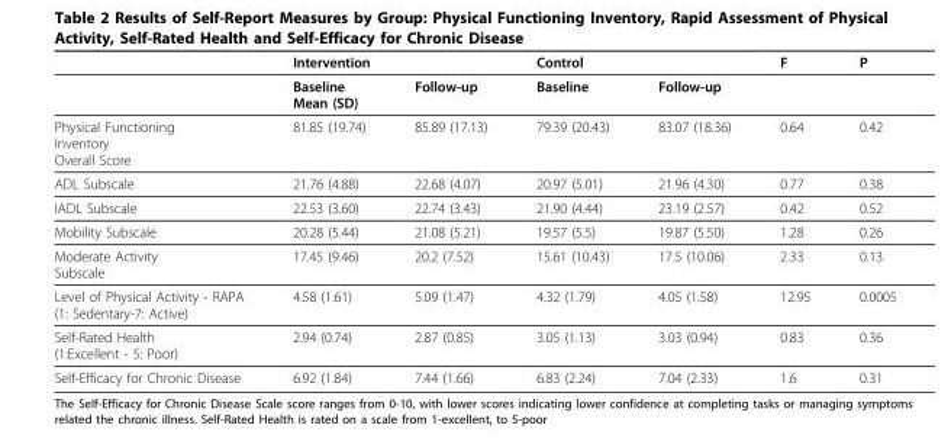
<table><thead><tr><td rowspan="2"></td><td colspan="2">Intervention</td><td colspan="2">Control</td><td rowspan="2">F</td><td rowspan="2">P</td></tr><tr><td>Baseline Mean (SD)</td><td>Follow-up</td><td>Baseline</td><td>Follow-up</td></tr></thead><tbody><tr><td>Physical Functioning Inventory Overall Score</td><td>81.85 (19.74)</td><td>85.89 (17.13)</td><td>79.39 (20.43)</td><td>83.07 (18.36)</td><td>0.64</td><td>0.42</td></tr><tr><td>ADL Subscale</td><td>21.76 (4.88)</td><td>22.68 (4.07)</td><td>20.97 (5.01)</td><td>21.96 (4.30)</td><td>0.77</td><td>0.38</td></tr><tr><td>IADL Subscale</td><td>22.53 (3.60)</td><td>22.74 (3.43)</td><td>21.90 (4.44)</td><td>23.19 (2.57)</td><td>0.42</td><td>0.52</td></tr><tr><td>Mobility Subscale</td><td>20.28 (5.44)</td><td>21.08 (5.21)</td><td>19.57 (5.5)</td><td>19.87 (5.50)</td><td>1.28</td><td>0.26</td></tr><tr><td>Moderate Activity Subscale</td><td>17.45 (9.46)</td><td>20.2 (7.52)</td><td>15.61 (10.43)</td><td>17.5 (10.06)</td><td>2.33</td><td>0.13</td></tr><tr><td>Level of Physical Activity - RAPA (1: Sedentary-7: Active)</td><td>4.58 (1.61)</td><td>5.09 (1.47)</td><td>4.32 (1.79)</td><td>4.05 (1.58)</td><td>12.95</td><td>0.0005</td></tr><tr><td>Self-Rated Health (1:Excellent - 5: Poor)</td><td>2.94 (0.74)</td><td>2.87 (0.85)</td><td>3.05 (1.13)</td><td>3.03 (0.94)</td><td>0.83</td><td>0.36</td></tr><tr><td>Self-Efficacy for Chronic Disease</td><td>6.92 (1.84)</td><td>7.44 (1.66)</td><td>6.83 (2.24)</td><td>7.04 (2.33)</td><td>1.6</td><td>0.31</td></tr></tbody></table>